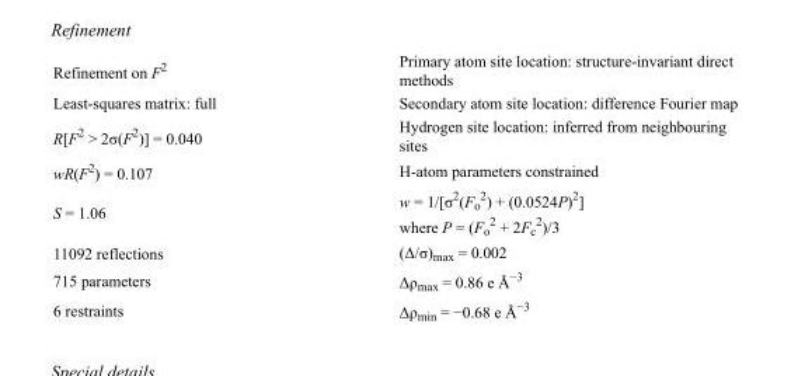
<table><tbody><tr><td>Refinement on F<sup>2</sup></td><td>Primary atom site location: structure-invariant direct methods</td></tr><tr><td>Least-squares matrix: full</td><td>Secondary atom site location: difference Fourier map</td></tr><tr><td>R[F<sup>2</sup> &gt; 2σ(F<sup>2</sup>)] = 0.040</td><td>Hydrogen site location: inferred from neighbouring sites</td></tr><tr><td>wR(F<sup>2</sup>) = 0.107</td><td>H-atom parameters constrained</td></tr><tr><td>S = 1.06</td><td>w = 1/[σ<sup>2</sup>(F<sub>o</sub> <sup>2</sup>) + (0.0524P)<sup>2</sup>] where P = (F<sub>o</sub> <sup>2</sup> + 2F<sub>c</sub> <sup>2</sup>)/3</td></tr><tr><td>11092 reflections</td><td>(Δ/σ)<sub>max</sub> = 0.002</td></tr><tr><td>715 parameters</td><td>Δρ<sub>max</sub> = 0.86 e Å<sup>−3</sup></td></tr><tr><td>6 restraints</td><td>Δρ<sub>min</sub> = −0.68 e Å<sup>−3</sup></td></tr></tbody></table>